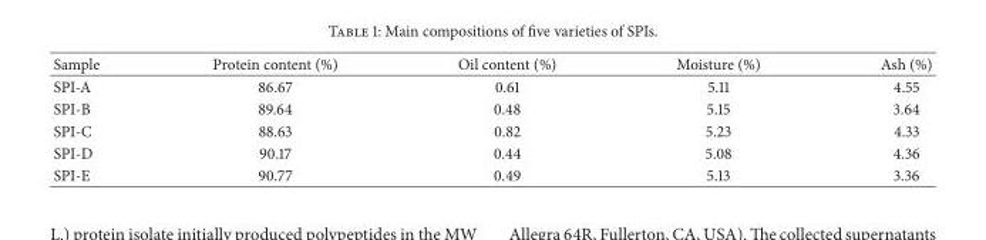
<table><thead><tr><td>Sample</td><td>Protein content (%)</td><td>Oil content (%)</td><td>Moisture (%)</td><td>Ash (%)</td></tr></thead><tbody><tr><td>SPI-A</td><td>86.67</td><td>0.61</td><td>5.11</td><td>4.55</td></tr><tr><td>SPI-B</td><td>89.64</td><td>0.48</td><td>5.15</td><td>3.64</td></tr><tr><td>SPI-C</td><td>88.63</td><td>0.82</td><td>5.23</td><td>4.33</td></tr><tr><td>SPI-D</td><td>90.17</td><td>0.44</td><td>5.08</td><td>4.36</td></tr><tr><td>SPI-E</td><td>90.77</td><td>0.49</td><td>5.13</td><td>3.36</td></tr></tbody></table>